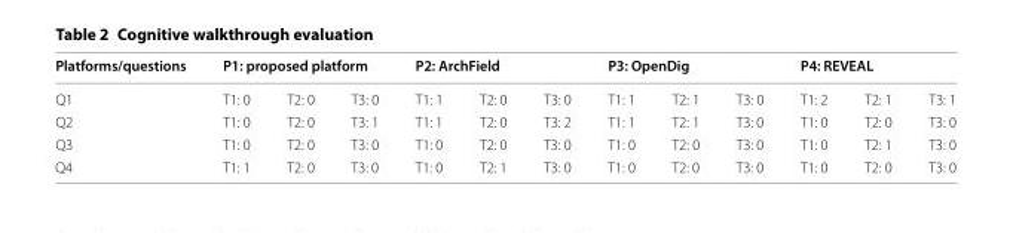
<table><thead><tr><td rowspan="2">Platforms/questions Q1</td><td colspan="3">P1: proposed platform</td><td colspan="3">P2: ArchField</td><td colspan="3">P3: OpenDig</td><td colspan="3">P4: REVEAL</td></tr><tr><td>T1: 0</td><td>T2: 0</td><td>T3: 0</td><td>T1: 1</td><td>T2: 0</td><td>T3: 0</td><td>T1: 1</td><td>T2: 1</td><td>T3: 0</td><td>T1: 2</td><td>T2: 1</td><td>T3: 1</td></tr></thead><tbody><tr><td>Q2</td><td>T1: 0</td><td>T2: 0</td><td>T3: 1</td><td>T1: 1</td><td>T2: 0</td><td>T3: 2</td><td>T1: 1</td><td>T2: 1</td><td>T3: 0</td><td>T1: 0</td><td>T2: 0</td><td>T3: 0</td></tr><tr><td>Q3</td><td>T1: 0</td><td>T2: 0</td><td>T3: 0</td><td>T1: 0</td><td>T2: 0</td><td>T3: 0</td><td>T1: 0</td><td>T2: 0</td><td>T3: 0</td><td>T1: 0</td><td>T2: 1</td><td>T3: 0</td></tr><tr><td>Q4</td><td>T1: 1</td><td>T2: 0</td><td>T3: 0</td><td>T1: 0</td><td>T2: 1</td><td>T3: 0</td><td>T1: 0</td><td>T2: 0</td><td>T3: 0</td><td>T1: 0</td><td>T2: 0</td><td>T3: 0</td></tr></tbody></table>